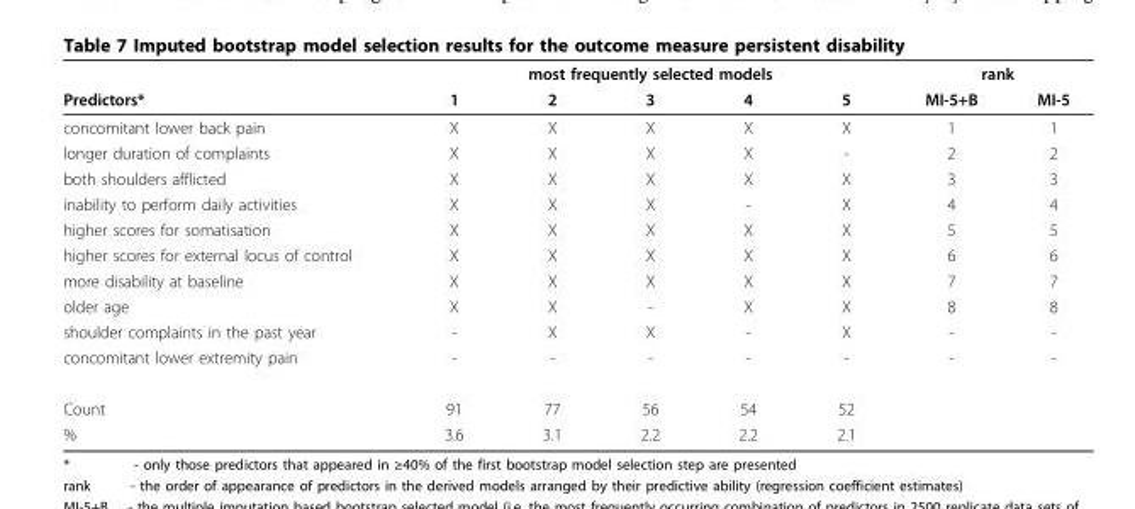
<table><thead><tr><td rowspan="2">Predictors*</td><td colspan="5">most frequently selected models</td><td colspan="2">rank</td></tr><tr><td>1</td><td>2</td><td>3</td><td>4</td><td>5</td><td>MI-5+B</td><td>MI-5</td></tr></thead><tbody><tr><td>concomitant lower back pain</td><td>X</td><td>X</td><td>X</td><td>X</td><td>X</td><td>1</td><td>1</td></tr><tr><td>longer duration of complaints</td><td>X</td><td>X</td><td>X</td><td>X</td><td>-</td><td>2</td><td>2</td></tr><tr><td>both shoulders afflicted</td><td>X</td><td>X</td><td>X</td><td>X</td><td>X</td><td>3</td><td>3</td></tr><tr><td>inability to perform daily activities</td><td>X</td><td>X</td><td>X</td><td>-</td><td>X</td><td>4</td><td>4</td></tr><tr><td>higher scores for somatisation</td><td>X</td><td>X</td><td>X</td><td>X</td><td>X</td><td>5</td><td>5</td></tr><tr><td>higher scores for external locus of control</td><td>X</td><td>X</td><td>X</td><td>X</td><td>X</td><td>6</td><td>6</td></tr><tr><td>more disability at baseline</td><td>X</td><td>X</td><td>X</td><td>X</td><td>X</td><td>7</td><td>7</td></tr><tr><td>older age</td><td>X</td><td>X</td><td>-</td><td>X</td><td>X</td><td>8</td><td>8</td></tr><tr><td>shoulder complaints in the past year</td><td>-</td><td>X</td><td>X</td><td>-</td><td>X</td><td>-</td><td>-</td></tr><tr><td>concomitant lower extremity pain</td><td>-</td><td>-</td><td>-</td><td>-</td><td>-</td><td>-</td><td>-</td></tr><tr><td>Count</td><td>91</td><td>77</td><td>56</td><td>54</td><td>52</td><td></td><td></td></tr><tr><td>%</td><td>3.6</td><td>3.1</td><td>2.2</td><td>2.2</td><td>2.1</td><td></td><td></td></tr></tbody></table>